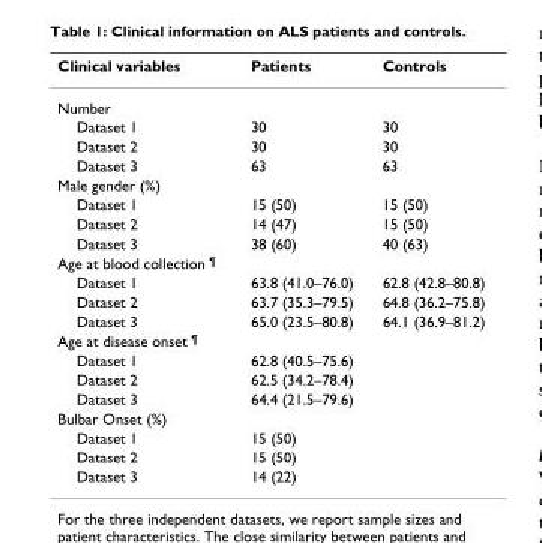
<table><thead><tr><td>Clinical variables</td><td>Patients</td><td>Controls</td></tr></thead><tbody><tr><td colspan="3">Number</td></tr><tr><td>Dataset 1</td><td>30</td><td>30</td></tr><tr><td>Dataset 2</td><td>30</td><td>30</td></tr><tr><td>Dataset 3</td><td>63</td><td>63</td></tr><tr><td colspan="3">Male gender (%)</td></tr><tr><td>Dataset 1</td><td>15 (50)</td><td>15 (50)</td></tr><tr><td>Dataset 2</td><td>14 (47)</td><td>15 (50)</td></tr><tr><td>Dataset 3</td><td>38 (60)</td><td>40 (63)</td></tr><tr><td colspan="3">Age at blood collection <sup>¶</sup></td></tr><tr><td>Dataset 1</td><td>63.8 (41.0–76.0)</td><td>62.8 (42.8–80.8)</td></tr><tr><td>Dataset 2</td><td>63.7 (35.3–79.5)</td><td>64.8 (36.2–75.8)</td></tr><tr><td>Dataset 3</td><td>65.0 (23.5–80.8)</td><td>64.1 (36.9–81.2)</td></tr><tr><td colspan="3">Age at disease onset <sup>¶</sup></td></tr><tr><td>Dataset 1</td><td>62.8 (40.5–75.6)</td><td></td></tr><tr><td>Dataset 2</td><td>62.5 (34.2–78.4)</td><td></td></tr><tr><td>Dataset 3</td><td>64.4 (21.5–79.6)</td><td></td></tr><tr><td colspan="3">Bulbar Onset (%)</td></tr><tr><td>Dataset 1</td><td>15 (50)</td><td></td></tr><tr><td>Dataset 2</td><td>15 (50)</td><td></td></tr><tr><td>Dataset 3</td><td>14 (22)</td><td></td></tr></tbody></table>